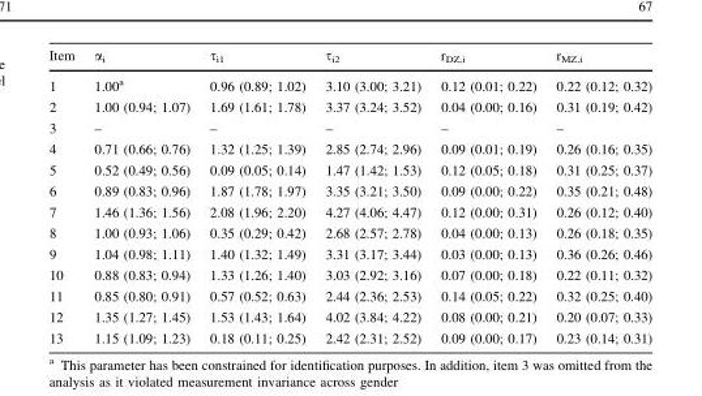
<table><thead><tr><td>Item</td><td>α<sub>i</sub></td><td>τ<sub>i1</sub></td><td>τ<sub>i2</sub></td><td>r<sub>DZ,i</sub></td><td>r<sub>MZ,i</sub></td></tr></thead><tbody><tr><td>1</td><td>1.00<sup>a</sup></td><td>0.96 (0.89; 1.02)</td><td>3.10 (3.00; 3.21)</td><td>0.12 (0.01; 0.22)</td><td>0.22 (0.12; 0.32)</td></tr><tr><td>2</td><td>1.00 (0.94; 1.07)</td><td>1.69 (1.61; 1.78)</td><td>3.37 (3.24; 3.52)</td><td>0.04 (0.00; 0.16)</td><td>0.31 (0.19; 0.42)</td></tr><tr><td>3</td><td>–</td><td>–</td><td>–</td><td>–</td><td>–</td></tr><tr><td>4</td><td>0.71 (0.66; 0.76)</td><td>1.32 (1.25; 1.39)</td><td>2.85 (2.74; 2.96)</td><td>0.09 (0.01; 0.19)</td><td>0.26 (0.16; 0.35)</td></tr><tr><td>5</td><td>0.52 (0.49; 0.56)</td><td>0.09 (0.05; 0.14)</td><td>1.47 (1.42; 1.53)</td><td>0.12 (0.05; 0.18)</td><td>0.31 (0.25; 0.37)</td></tr><tr><td>6</td><td>0.89 (0.83; 0.96)</td><td>1.87 (1.78; 1.97)</td><td>3.35 (3.21; 3.50)</td><td>0.09 (0.00; 0.22)</td><td>0.35 (0.21; 0.48)</td></tr><tr><td>7</td><td>1.46 (1.36; 1.56)</td><td>2.08 (1.96; 2.20)</td><td>4.27 (4.06; 4.47)</td><td>0.12 (0.00; 0.31)</td><td>0.26 (0.12; 0.40)</td></tr><tr><td>8</td><td>1.00 (0.93; 1.06)</td><td>0.35 (0.29; 0.42)</td><td>2.68 (2.57; 2.78)</td><td>0.04 (0.00; 0.13)</td><td>0.26 (0.18; 0.35)</td></tr><tr><td>9</td><td>1.04 (0.98; 1.11)</td><td>1.40 (1.32; 1.49)</td><td>3.31 (3.17; 3.44)</td><td>0.03 (0.00; 0.13)</td><td>0.36 (0.26; 0.46)</td></tr><tr><td>10</td><td>0.88 (0.83; 0.94)</td><td>1.33 (1.26; 1.40)</td><td>3.03 (2.92; 3.16)</td><td>0.07 (0.00; 0.18)</td><td>0.22 (0.11; 0.32)</td></tr><tr><td>11</td><td>0.85 (0.80; 0.91)</td><td>0.57 (0.52; 0.63)</td><td>2.44 (2.36; 2.53)</td><td>0.14 (0.05; 0.22)</td><td>0.32 (0.25; 0.40)</td></tr><tr><td>12</td><td>1.35 (1.27; 1.45)</td><td>1.53 (1.43; 1.64)</td><td>4.02 (3.84; 4.22)</td><td>0.08 (0.00; 0.21)</td><td>0.20 (0.07; 0.33)</td></tr><tr><td>13</td><td>1.15 (1.09; 1.23)</td><td>0.18 (0.11; 0.25)</td><td>2.42 (2.31; 2.52)</td><td>0.09 (0.00; 0.17)</td><td>0.23 (0.14; 0.31)</td></tr></tbody></table>